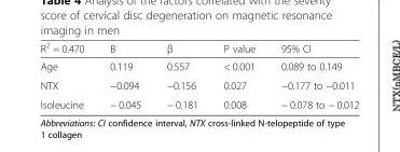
<table><thead><tr><td>R<sup>2</sup> = 0.470</td><td>B</td><td>β</td><td>P value</td><td>95% CI</td></tr></thead><tbody><tr><td>Age</td><td>0.119</td><td>0.557</td><td>&lt; 0.001</td><td>0.089 to 0.149</td></tr><tr><td>NTX</td><td>−0.094</td><td>−0.156</td><td>0.027</td><td>−0.177 to −0.011</td></tr><tr><td>Isoleucine</td><td>− 0.045</td><td>− 0.181</td><td>0.008</td><td>− 0.078 to − 0.012</td></tr></tbody></table>